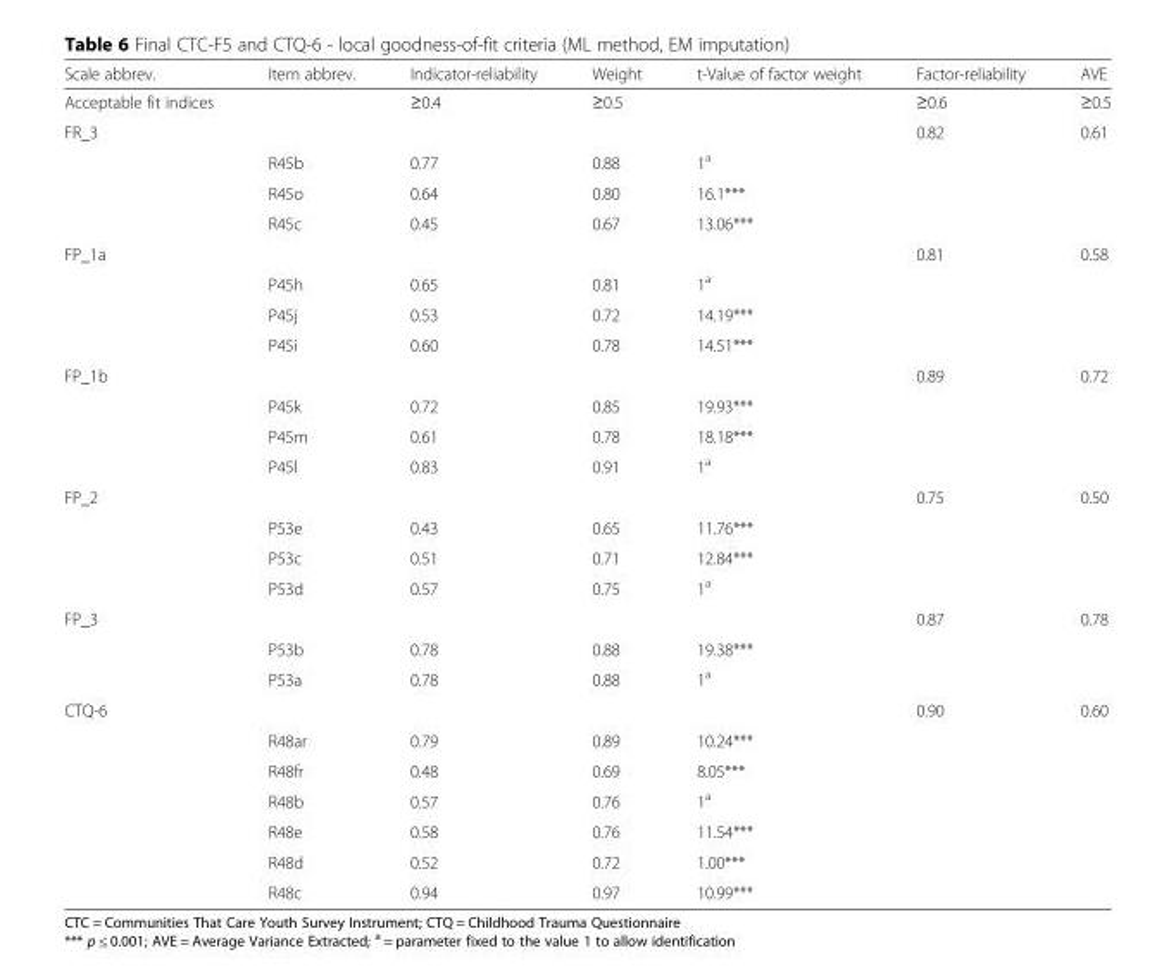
<table><thead><tr><td>Scale abbrev.</td><td>Item abbrev.</td><td>Indicator-reliability</td><td>Weight</td><td>t-Value of factor weight</td><td>Factor-reliability</td><td>AVE</td></tr></thead><tbody><tr><td>Acceptable fit indices</td><td></td><td>≥0.4</td><td>≥0.5</td><td></td><td>≥0.6</td><td>≥0.5</td></tr><tr><td rowspan="4">FR_3</td><td></td><td></td><td></td><td></td><td>0.82</td><td>0.61</td></tr><tr><td>R45b</td><td>0.77</td><td>0.88</td><td>1<sup>a</sup></td><td></td><td></td></tr><tr><td>R45o</td><td>0.64</td><td>0.80</td><td>16.1***</td><td></td><td></td></tr><tr><td>R45c</td><td>0.45</td><td>0.67</td><td>13.06***</td><td></td><td></td></tr><tr><td rowspan="4">FP_1a</td><td></td><td></td><td></td><td></td><td>0.81</td><td>0.58</td></tr><tr><td>P45h</td><td>0.65</td><td>0.81</td><td>1<sup>a</sup></td><td></td><td></td></tr><tr><td>P45j</td><td>0.53</td><td>0.72</td><td>14.19***</td><td></td><td></td></tr><tr><td>P45i</td><td>0.60</td><td>0.78</td><td>14.51***</td><td></td><td></td></tr><tr><td rowspan="4">FP_1b</td><td></td><td></td><td></td><td></td><td>0.89</td><td>0.72</td></tr><tr><td>P45k</td><td>0.72</td><td>0.85</td><td>19.93***</td><td></td><td></td></tr><tr><td>P45m</td><td>0.61</td><td>0.78</td><td>18.18***</td><td></td><td></td></tr><tr><td>P45l</td><td>0.83</td><td>0.91</td><td>1<sup>a</sup></td><td></td><td></td></tr><tr><td rowspan="4">FP_2</td><td></td><td></td><td></td><td></td><td>0.75</td><td>0.50</td></tr><tr><td>P53e</td><td>0.43</td><td>0.65</td><td>11.76***</td><td></td><td></td></tr><tr><td>P53c</td><td>0.51</td><td>0.71</td><td>12.84***</td><td></td><td></td></tr><tr><td>P53d</td><td>0.57</td><td>0.75</td><td>1<sup>a</sup></td><td></td><td></td></tr><tr><td rowspan="3">FP_3</td><td></td><td></td><td></td><td></td><td>0.87</td><td>0.78</td></tr><tr><td>P53b</td><td>0.78</td><td>0.88</td><td>19.38***</td><td></td><td></td></tr><tr><td>P53a</td><td>0.78</td><td>0.88</td><td>1<sup>a</sup></td><td></td><td></td></tr><tr><td rowspan="7">CTQ-6</td><td></td><td></td><td></td><td></td><td>0.90</td><td>0.60</td></tr><tr><td>R48ar</td><td>0.79</td><td>0.89</td><td>10.24***</td><td></td><td></td></tr><tr><td>R48fr</td><td>0.48</td><td>0.69</td><td>8.05***</td><td></td><td></td></tr><tr><td>R48b</td><td>0.57</td><td>0.76</td><td>1<sup>a</sup></td><td></td><td></td></tr><tr><td>R48e</td><td>0.58</td><td>0.76</td><td>11.54***</td><td></td><td></td></tr><tr><td>R48d</td><td>0.52</td><td>0.72</td><td>1.00***</td><td></td><td></td></tr><tr><td>R48c</td><td>0.94</td><td>0.97</td><td>10.99***</td><td></td><td></td></tr></tbody></table>